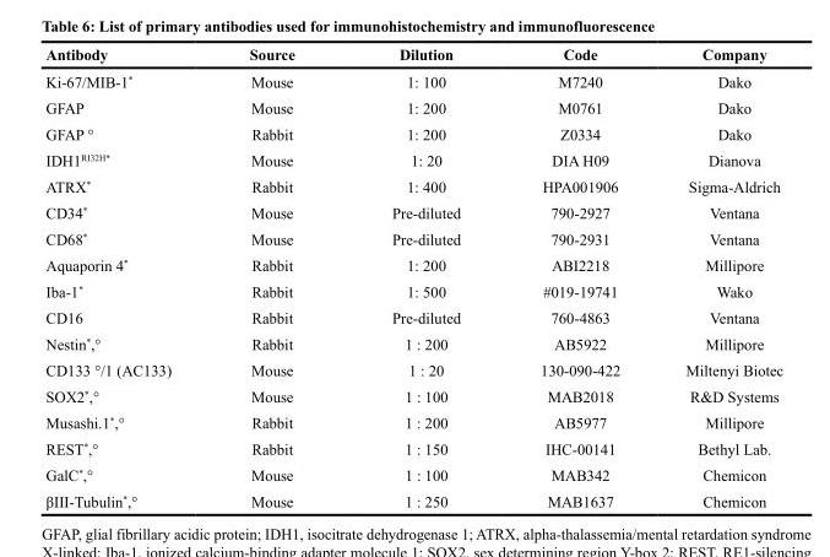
<table><thead><tr><td>Antibody</td><td>Source</td><td>Dilution</td><td>Code</td><td>Company</td></tr></thead><tbody><tr><td>Ki-67/MIB-1*</td><td>Mouse</td><td>1: 100</td><td>M7240</td><td>Dako</td></tr><tr><td>GFAP</td><td>Mouse</td><td>1: 200</td><td>M0761</td><td>Dako</td></tr><tr><td>GFAP °</td><td>Rabbit</td><td>1: 200</td><td>Z0334</td><td>Dako</td></tr><tr><td>IDH1<sup>RI32H</sup>*</td><td>Mouse</td><td>1: 20</td><td>DIA H09</td><td>Dianova</td></tr><tr><td>ATRX*</td><td>Rabbit</td><td>1: 400</td><td>HPA001906</td><td>Sigma-Aldrich</td></tr><tr><td>CD34*</td><td>Mouse</td><td>Pre-diluted</td><td>790-2927</td><td>Ventana</td></tr><tr><td>CD68*</td><td>Mouse</td><td>Pre-diluted</td><td>790-2931</td><td>Ventana</td></tr><tr><td>Aquaporin 4*</td><td>Rabbit</td><td>1: 200</td><td>ABI2218</td><td>Millipore</td></tr><tr><td>Iba-1*</td><td>Rabbit</td><td>1: 500</td><td>#019-19741</td><td>Wako</td></tr><tr><td>CD16</td><td>Rabbit</td><td>Pre-diluted</td><td>760-4863</td><td>Ventana</td></tr><tr><td>Nestin*,°</td><td>Rabbit</td><td>1 : 200</td><td>AB5922</td><td>Millipore</td></tr><tr><td>CD133 °/1 (AC133)</td><td>Mouse</td><td>1 : 20</td><td>130-090-422</td><td>Miltenyi Biotec</td></tr><tr><td>SOX2*,°</td><td>Mouse</td><td>1 : 100</td><td>MAB2018</td><td>R&amp;D Systems</td></tr><tr><td>Musashi.1*,°</td><td>Rabbit</td><td>1 : 200</td><td>AB5977</td><td>Millipore</td></tr><tr><td>REST*,°</td><td>Rabbit</td><td>1 : 150</td><td>IHC-00141</td><td>Bethyl Lab.</td></tr><tr><td>GalC*,°</td><td>Mouse</td><td>1 : 100</td><td>MAB342</td><td>Chemicon</td></tr><tr><td>βIII-Tubulin*,°</td><td>Mouse</td><td>1 : 250</td><td>MAB1637</td><td>Chemicon</td></tr></tbody></table>